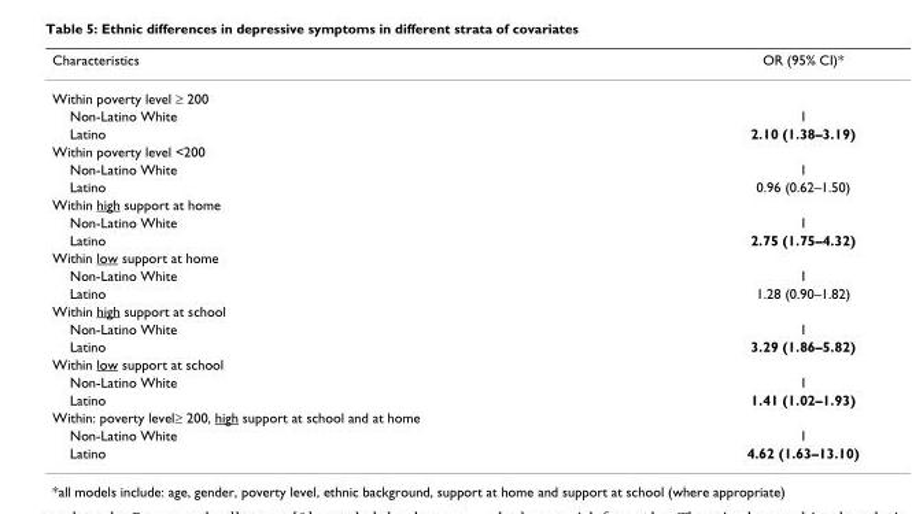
<table><thead><tr><td>Characteristics</td><td>OR (95% CI)*</td></tr></thead><tbody><tr><td colspan="2">Within poverty level ≥ 200</td></tr><tr><td>Non-Latino White</td><td>1</td></tr><tr><td>Latino</td><td>2.10 (1.38–3.19)</td></tr><tr><td colspan="2">Within poverty level &lt;200</td></tr><tr><td>Non-Latino White</td><td>1</td></tr><tr><td>Latino</td><td>0.96 (0.62–1.50)</td></tr><tr><td colspan="2">Within high support at home</td></tr><tr><td>Non-Latino White</td><td>1</td></tr><tr><td>Latino</td><td>2.75 (1.75–4.32)</td></tr><tr><td colspan="2">Within low support at home</td></tr><tr><td>Non-Latino White</td><td>1</td></tr><tr><td>Latino</td><td>1.28 (0.90–1.82)</td></tr><tr><td colspan="2">Within high support at school</td></tr><tr><td>Non-Latino White</td><td>1</td></tr><tr><td>Latino</td><td>3.29 (1.86–5.82)</td></tr><tr><td colspan="2">Within low support at school</td></tr><tr><td>Non-Latino White</td><td>1</td></tr><tr><td>Latino</td><td>1.41 (1.02–1.93)</td></tr><tr><td colspan="2">Within: poverty level≥ 200, high support at school and at home</td></tr><tr><td>Non-Latino White</td><td>1</td></tr><tr><td>Latino</td><td>4.62 (1.63–13.10)</td></tr></tbody></table>